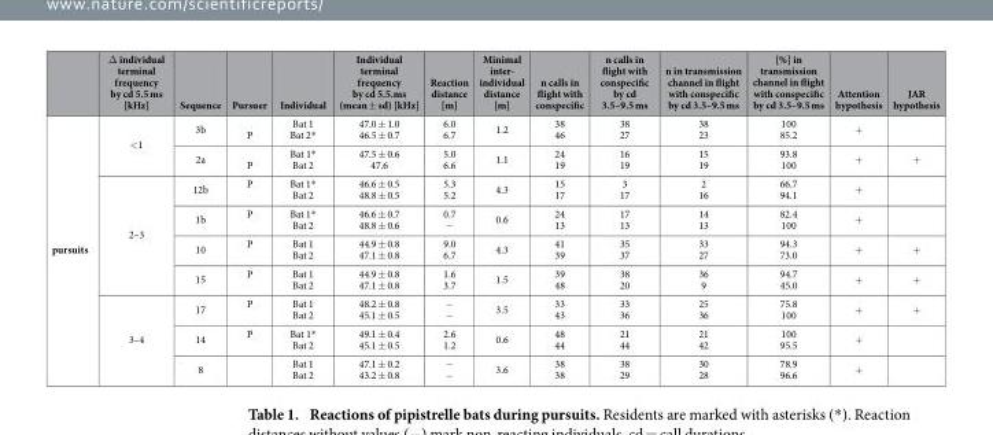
<table><thead><tr><td></td><td>Δ individual terminal frequency by cd 5.5 ms [kHz]</td><td>Sequence</td><td>Pursuer</td><td>Individual</td><td>Individual terminal frequency by cd 5.5.ms (mean ± sd) [kHz]</td><td>Reaction distance [m]</td><td>Minimal inter- individual distance [m]</td><td>n calls in flight with conspecific</td><td>n calls in flight with conspecific by cd 3.5–9.5 ms</td><td>n in transmission channel in flight with conspecific by cd 3.5–9.5 ms</td><td>[%] in transmission channel in flight with conspecific by cd 3.5–9.5 ms</td><td>Attention hypothesis</td><td>JAR hypothesis</td></tr></thead><tbody><tr><td rowspan="9">pursuits</td><td rowspan="2">&lt; 1</td><td>3b</td><td>P</td><td>Bat 1 Bat 2*</td><td>47.0 ± 1.0 46.5 ± 0.7</td><td>6.0 6.7</td><td>1.2</td><td>38 46</td><td>38 27</td><td>38 23</td><td>100 85.2</td><td>+</td><td></td></tr><tr><td>2a</td><td>P</td><td>Bat 1* Bat 2</td><td>47.5 ± 0.6 47.6</td><td>5.0 6.6</td><td>1.1</td><td>24 19</td><td>16 19</td><td>15 19</td><td>93.8 100</td><td>+</td><td>+</td></tr><tr><td rowspan="4">2–3</td><td>12b</td><td>P</td><td>Bat 1* Bat 2</td><td>46.6 ± 0.5 48.8 ± 0.5</td><td>5.3 5.2</td><td>4.3</td><td>15 17</td><td>3 17</td><td>2 16</td><td>66.7 94.1</td><td>+</td><td></td></tr><tr><td>1b</td><td>P</td><td>Bat 1* Bat 2</td><td>46.6 ± 0.7 48.8 ± 0.6</td><td>0.7 −</td><td>0.6</td><td>24 13</td><td>17 13</td><td>14 13</td><td>82.4 100</td><td>+</td><td></td></tr><tr><td>10</td><td>P</td><td>Bat 1 Bat 2</td><td>44.9 ± 0.8 47.1 ± 0.8</td><td>9.0 6.7</td><td>4.3</td><td>41 39</td><td>35 37</td><td>33 27</td><td>94.3 73.0</td><td>+</td><td>+</td></tr><tr><td>15</td><td>P</td><td>Bat 1 Bat 2</td><td>44.9 ± 0.8 47.1 ± 0.8</td><td>1.6 3.7</td><td>1.5</td><td>39 48</td><td>38 20</td><td>36 9</td><td>94.7 45.0</td><td>+</td><td>+</td></tr><tr><td rowspan="3">3–4</td><td>17</td><td>P</td><td>Bat 1 Bat 2</td><td>48.2 ± 0.8 45.1 ± 0.5</td><td>− −</td><td>3.5</td><td>33 43</td><td>33 36</td><td>25 36</td><td>75.8 100</td><td>+</td><td>+</td></tr><tr><td>14</td><td>P</td><td>Bat 1* Bat 2</td><td>49.1 ± 0.4 45.1 ± 0.5</td><td>2.6 1.2</td><td>0.6</td><td>48 44</td><td>21 44</td><td>21 42</td><td>100 95.5</td><td>+</td><td></td></tr><tr><td>8</td><td></td><td>Bat 1 Bat 2</td><td>47.1 ± 0.2 43.2 ± 0.8</td><td>− −</td><td>3.6</td><td>38 38</td><td>38 29</td><td>30 28</td><td>78.9 96.6</td><td>+</td><td></td></tr></tbody></table>